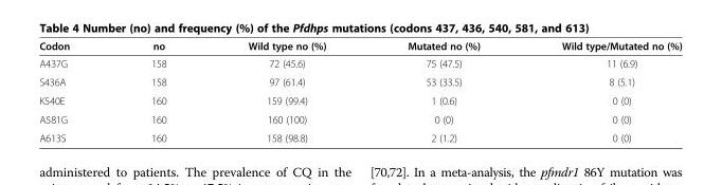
<table><thead><tr><td>Codon</td><td>no</td><td>Wild type no (%)</td><td>Mutated no (%)</td><td>Wild type/Mutated no (%)</td></tr></thead><tbody><tr><td>A437G</td><td>158</td><td>72 (45.6)</td><td>75 (47.5)</td><td>11 (6.9)</td></tr><tr><td>S436A</td><td>158</td><td>97 (61.4)</td><td>53 (33.5)</td><td>8 (5.1)</td></tr><tr><td>K540E</td><td>160</td><td>159 (99.4)</td><td>1 (0.6)</td><td>0 (0)</td></tr><tr><td>A581G</td><td>160</td><td>160 (100)</td><td>0 (0)</td><td>0 (0)</td></tr><tr><td>A613S</td><td>160</td><td>158 (98.8)</td><td>2 (1.2)</td><td>0 (0)</td></tr></tbody></table>